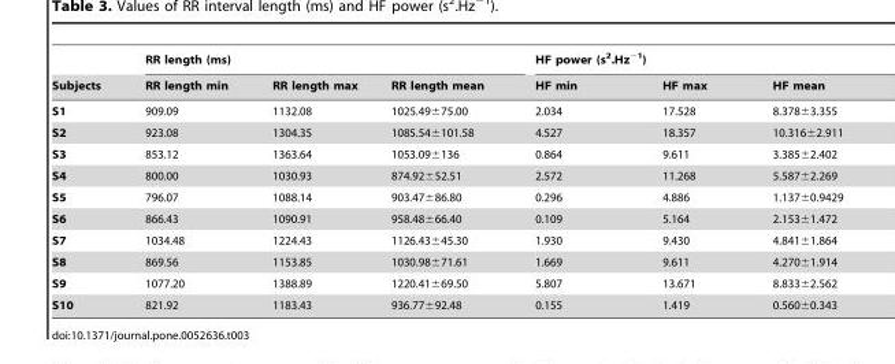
<table><thead><tr><td rowspan="2">Subjects</td><td colspan="3">RR length (ms)</td><td colspan="3">HF power (s<sup>2</sup>.Hz<sup>−1</sup>)</td></tr><tr><td>RR length min</td><td>RR length max</td><td>RR length mean</td><td>HF min</td><td>HF max</td><td>HF mean</td></tr></thead><tbody><tr><td>S1</td><td>909.09</td><td>1132.08</td><td>1025.49±75.00</td><td>2.034</td><td>17.528</td><td>8.378±3.355</td></tr><tr><td>S2</td><td>923.08</td><td>1304.35</td><td>1085.54±101.58</td><td>4.527</td><td>18.357</td><td>10.316±2.911</td></tr><tr><td>S3</td><td>853.12</td><td>1363.64</td><td>1053.09±136</td><td>0.864</td><td>9.611</td><td>3.385±2.402</td></tr><tr><td>S4</td><td>800.00</td><td>1030.93</td><td>874.92±52.51</td><td>2.572</td><td>11.268</td><td>5.587±2.269</td></tr><tr><td>S5</td><td>796.07</td><td>1088.14</td><td>903.47±86.80</td><td>0.296</td><td>4.886</td><td>1.137±0.9429</td></tr><tr><td>S6</td><td>866.43</td><td>1090.91</td><td>958.48±66.40</td><td>0.109</td><td>5.164</td><td>2.153±1.472</td></tr><tr><td>S7</td><td>1034.48</td><td>1224.43</td><td>1126.43±45.30</td><td>1.930</td><td>9.430</td><td>4.841±1.864</td></tr><tr><td>S8</td><td>869.56</td><td>1153.85</td><td>1030.98±71.61</td><td>1.669</td><td>9.611</td><td>4.270±1.914</td></tr><tr><td>S9</td><td>1077.20</td><td>1388.89</td><td>1220.41±69.50</td><td>5.807</td><td>13.671</td><td>8.833±2.562</td></tr><tr><td>S10</td><td>821.92</td><td>1183.43</td><td>936.77±92.48</td><td>0.155</td><td>1.419</td><td>0.560±0.343</td></tr></tbody></table>